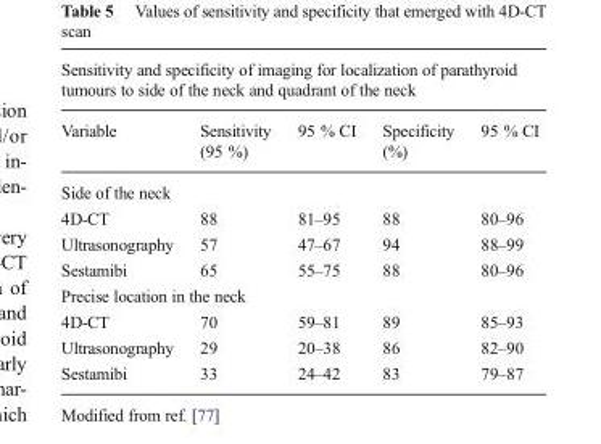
<table><thead><tr><td colspan="5">Sensitivity and specificity of imaging for localization of parathyroid tumours to side of the neck and quadrant of the neck</td></tr><tr><td>Variable</td><td>Sensitivity (95 %)</td><td>95 % CI</td><td>Specificity (%)</td><td>95 % CI</td></tr></thead><tbody><tr><td colspan="5">Side of the neck</td></tr><tr><td>4D-CT</td><td>88</td><td>81–95</td><td>88</td><td>80–96</td></tr><tr><td>Ultrasonography</td><td>57</td><td>47–67</td><td>94</td><td>88–99</td></tr><tr><td>Sestamibi</td><td>65</td><td>55–75</td><td>88</td><td>80–96</td></tr><tr><td colspan="5">Precise location in the neck</td></tr><tr><td>4D-CT</td><td>70</td><td>59–81</td><td>89</td><td>85–93</td></tr><tr><td>Ultrasonography</td><td>29</td><td>20–38</td><td>86</td><td>82–90</td></tr><tr><td>Sestamibi</td><td>33</td><td>24–42</td><td>83</td><td>79–87</td></tr></tbody></table>